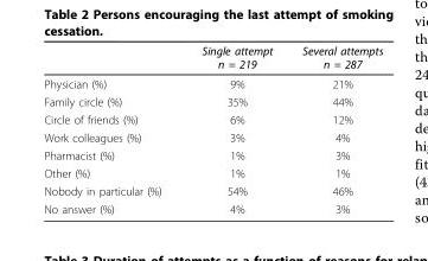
<table><thead><tr><td></td><td>Single attempt n = 219</td><td>Several attempts n = 287</td></tr></thead><tbody><tr><td>Physician (%)</td><td>9%</td><td>21%</td></tr><tr><td>Family circle (%)</td><td>35%</td><td>44%</td></tr><tr><td>Circle of friends (%)</td><td>6%</td><td>12%</td></tr><tr><td>Work colleagues (%)</td><td>3%</td><td>4%</td></tr><tr><td>Pharmacist (%)</td><td>1%</td><td>3%</td></tr><tr><td>Other (%)</td><td>1%</td><td>1%</td></tr><tr><td>Nobody in particular (%)</td><td>54%</td><td>46%</td></tr><tr><td>No answer (%)</td><td>4%</td><td>3%</td></tr></tbody></table>